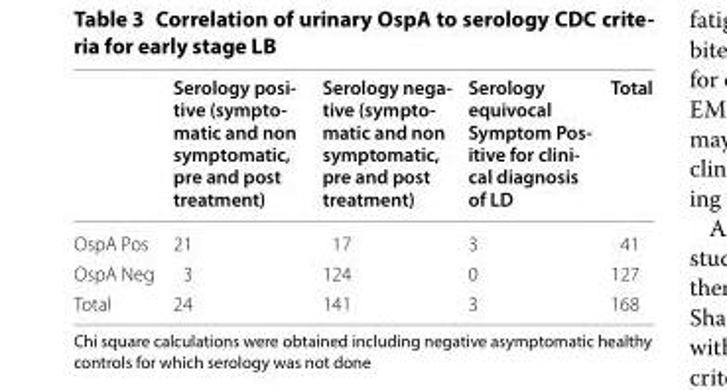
<table><thead><tr><td></td><td>Serology posi‑ tive (sympto‑ matic and non symptomatic, pre and post treatment)</td><td>Serology nega‑ tive (sympto‑ matic and non symptomatic, pre and post treatment)</td><td>Serology equivocal Symptom Pos‑ itive for clini‑ cal diagnosis of LD</td><td>Total</td></tr></thead><tbody><tr><td>OspA Pos</td><td>21</td><td>17</td><td>3</td><td>41</td></tr><tr><td>OspA Neg</td><td>3</td><td>124</td><td>0</td><td>127</td></tr><tr><td>Total</td><td>24</td><td>141</td><td>3</td><td>168</td></tr></tbody></table>